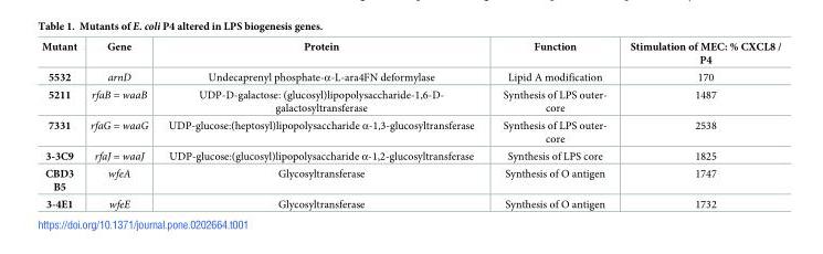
<table><thead><tr><td>Mutant</td><td>Gene</td><td>Protein</td><td>Function</td><td>Stimulation of MEC: % CXCL8 / P4</td></tr></thead><tbody><tr><td>5532</td><td>arnD</td><td>Undecaprenyl phosphate-α-L-ara4FN deformylase</td><td>Lipid A modification</td><td>170</td></tr><tr><td>5211</td><td>rfaB = waaB</td><td>UDP-D-galactose: (glucosyl)lipopolysaccharide-1,6-D- galactosyltransferase</td><td>Synthesis of LPS outer- core</td><td>1487</td></tr><tr><td>7331</td><td>rfaG = waaG</td><td>UDP-glucose:(heptosyl)lipopolysaccharide α-1,3-glucosyltransferase</td><td>Synthesis of LPS outer- core</td><td>2538</td></tr><tr><td>3-3C9</td><td>rfaJ = waaJ</td><td>UDP-glucose:(glucosyl)lipopolysaccharide α-1,2-glucosyltransferase</td><td>Synthesis of LPS core</td><td>1825</td></tr><tr><td>CBD3 B5</td><td>wfeA</td><td>Glycosyltransferase</td><td>Synthesis of O antigen</td><td>1747</td></tr><tr><td>3-4E1</td><td>wfeE</td><td>Glycosyltransferase</td><td>Synthesis of O antigen</td><td>1732</td></tr></tbody></table>